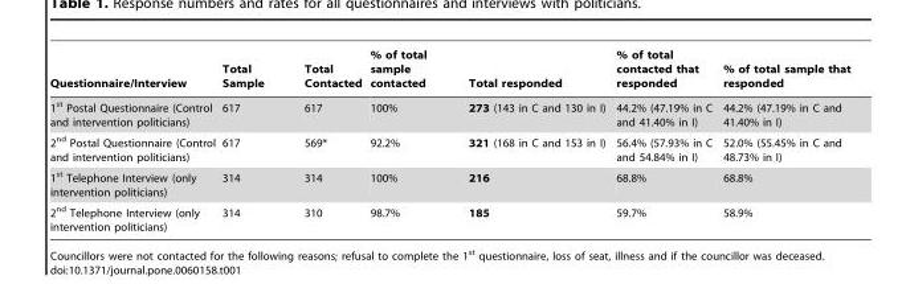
<table><thead><tr><td>Questionnaire/Interview</td><td>Total Sample</td><td>Total Contacted</td><td>% of total sample contacted</td><td>Total responded</td><td>% of total contacted that responded</td><td>% of total sample that responded</td></tr></thead><tbody><tr><td>1<sup>st</sup> Postal Questionnaire (Control and intervention politicians)</td><td>617</td><td>617</td><td>100%</td><td>273 (143 in C and 130 in I)</td><td>44.2% (47.19% in C and 41.40% in I)</td><td>44.2% (47.19% in C and 41.40% in I)</td></tr><tr><td>2<sup>nd</sup> Postal Questionnaire (Control and intervention politicians)</td><td>617</td><td>569*</td><td>92.2%</td><td>321 (168 in C and 153 in I)</td><td>56.4% (57.93% in C and 54.84% in I)</td><td>52.0% (55.45% in C and 48.73% in I)</td></tr><tr><td>1<sup>st</sup> Telephone Interview (only intervention politicians)</td><td>314</td><td>314</td><td>100%</td><td>216</td><td>68.8%</td><td>68.8%</td></tr><tr><td>2<sup>nd</sup> Telephone Interview (only intervention politicians)</td><td>314</td><td>310</td><td>98.7%</td><td>185</td><td>59.7%</td><td>58.9%</td></tr></tbody></table>